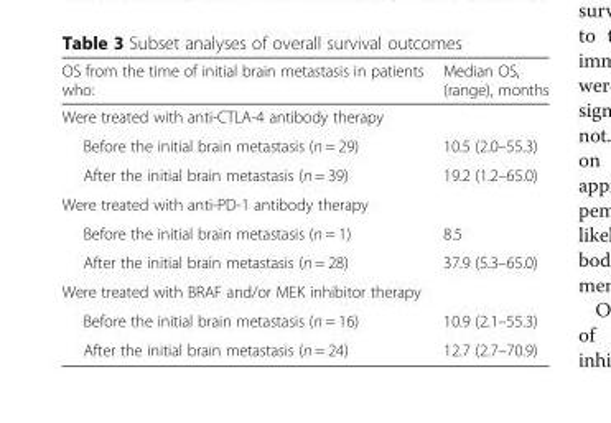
<table><thead><tr><td>OS from the time of initial brain metastasis in patients who:</td><td>Median OS, (range), months</td></tr></thead><tbody><tr><td colspan="2">Were treated with anti-CTLA-4 antibody therapy</td></tr><tr><td>Before the initial brain metastasis (n = 29)</td><td>10.5 (2.0–55.3)</td></tr><tr><td>After the initial brain metastasis (n = 39)</td><td>19.2 (1.2–65.0)</td></tr><tr><td colspan="2">Were treated with anti-PD-1 antibody therapy</td></tr><tr><td>Before the initial brain metastasis (n = 1)</td><td>8.5</td></tr><tr><td>After the initial brain metastasis (n = 28)</td><td>37.9 (5.3–65.0)</td></tr><tr><td colspan="2">Were treated with BRAF and/or MEK inhibitor therapy</td></tr><tr><td>Before the initial brain metastasis (n = 16)</td><td>10.9 (2.1–55.3)</td></tr><tr><td>After the initial brain metastasis (n = 24)</td><td>12.7 (2.7–70.9)</td></tr></tbody></table>